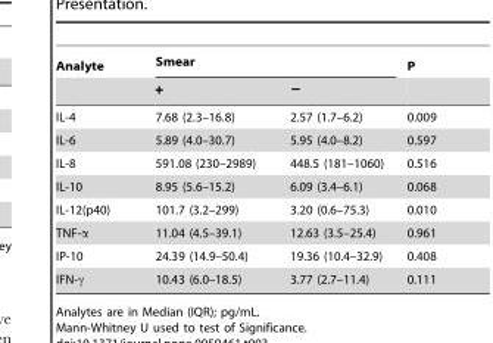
<table><thead><tr><td rowspan="2">Analyte</td><td colspan="2">Smear</td><td rowspan="2">P</td></tr><tr><td>+</td><td>−</td></tr></thead><tbody><tr><td>IL-4</td><td>7.68 (2.3–16.8)</td><td>2.57 (1.7–6.2)</td><td>0.009</td></tr><tr><td>IL-6</td><td>5.89 (4.0–30.7)</td><td>5.95 (4.0–8.2)</td><td>0.597</td></tr><tr><td>IL-8</td><td>591.08 (230–2989)</td><td>448.5 (181–1060)</td><td>0.516</td></tr><tr><td>IL-10</td><td>8.95 (5.6–15.2)</td><td>6.09 (3.4–6.1)</td><td>0.068</td></tr><tr><td>IL-12(p40)</td><td>101.7 (3.2–299)</td><td>3.20 (0.6–75.3)</td><td>0.010</td></tr><tr><td>TNF-α</td><td>11.04 (4.5–39.1)</td><td>12.63 (3.5–25.4)</td><td>0.961</td></tr><tr><td>IP-10</td><td>24.39 (14.9–50.4)</td><td>19.36 (10.4–32.9)</td><td>0.408</td></tr><tr><td>IFN-γ</td><td>10.43 (6.0–18.5)</td><td>3.77 (2.7–11.4)</td><td>0.111</td></tr></tbody></table>